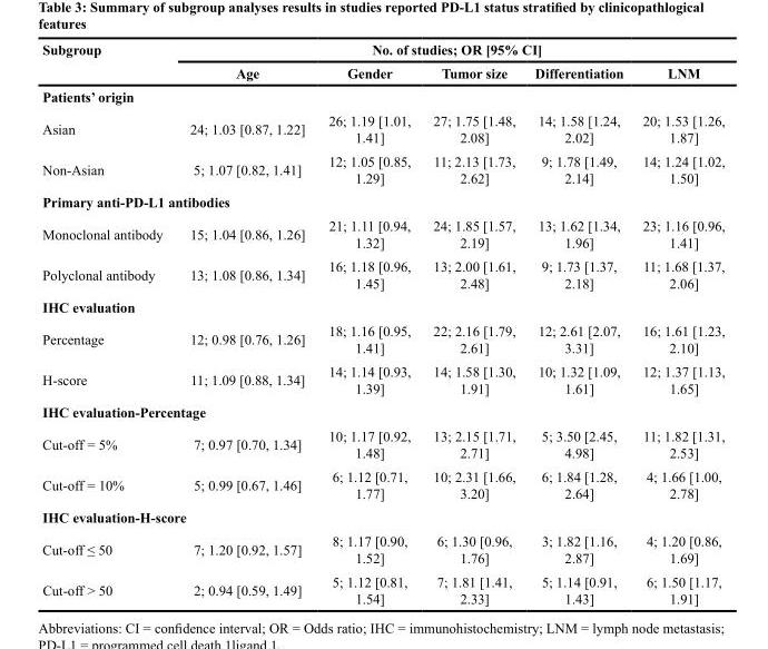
<table><thead><tr><td rowspan="2">Subgroup</td><td colspan="5">No. of studies; OR [95% CI]</td></tr><tr><td>Age</td><td>Gender</td><td>Tumor size</td><td>Differentiation</td><td>LNM</td></tr></thead><tbody><tr><td colspan="6">Patients’ origin</td></tr><tr><td>Asian</td><td>24; 1.03 [0.87, 1.22]</td><td>26; 1.19 [1.01, 1.41]</td><td>27; 1.75 [1.48, 2.08]</td><td>14; 1.58 [1.24, 2.02]</td><td>20; 1.53 [1.26, 1.87]</td></tr><tr><td>Non-Asian</td><td>5; 1.07 [0.82, 1.41]</td><td>12; 1.05 [0.85, 1.29]</td><td>11; 2.13 [1.73, 2.62]</td><td>9; 1.78 [1.49, 2.14]</td><td>14; 1.24 [1.02, 1.50]</td></tr><tr><td colspan="6">Primary anti-PD-L1 antibodies</td></tr><tr><td>Monoclonal antibody</td><td>15; 1.04 [0.86, 1.26]</td><td>21; 1.11 [0.94, 1.32]</td><td>24; 1.85 [1.57, 2.19]</td><td>13; 1.62 [1.34, 1.96]</td><td>23; 1.16 [0.96, 1.41]</td></tr><tr><td>Polyclonal antibody</td><td>13; 1.08 [0.86, 1.34]</td><td>16; 1.18 [0.96, 1.45]</td><td>13; 2.00 [1.61, 2.48]</td><td>9; 1.73 [1.37, 2.18]</td><td>11; 1.68 [1.37, 2.06]</td></tr><tr><td colspan="6">IHC evaluation</td></tr><tr><td>Percentage</td><td>12; 0.98 [0.76, 1.26]</td><td>18; 1.16 [0.95, 1.41]</td><td>22; 2.16 [1.79, 2.61]</td><td>12; 2.61 [2.07, 3.31]</td><td>16; 1.61 [1.23, 2.10]</td></tr><tr><td>H-score</td><td>11; 1.09 [0.88, 1.34]</td><td>14; 1.14 [0.93, 1.39]</td><td>14; 1.58 [1.30, 1.91]</td><td>10; 1.32 [1.09, 1.61]</td><td>12; 1.37 [1.13, 1.65]</td></tr><tr><td colspan="6">IHC evaluation-Percentage</td></tr><tr><td>Cut-off = 5%</td><td>7; 0.97 [0.70, 1.34]</td><td>10; 1.17 [0.92, 1.48]</td><td>13; 2.15 [1.71, 2.71]</td><td>5; 3.50 [2.45, 4.98]</td><td>11; 1.82 [1.31, 2.53]</td></tr><tr><td>Cut-off = 10%</td><td>5; 0.99 [0.67, 1.46]</td><td>6; 1.12 [0.71, 1.77]</td><td>10; 2.31 [1.66, 3.20]</td><td>6; 1.84 [1.28, 2.64]</td><td>4; 1.66 [1.00, 2.78]</td></tr><tr><td colspan="6">IHC evaluation-H-score</td></tr><tr><td>Cut-off ≤ 50</td><td>7; 1.20 [0.92, 1.57]</td><td>8; 1.17 [0.90, 1.52]</td><td>6; 1.30 [0.96, 1.76]</td><td>3; 1.82 [1.16, 2.87]</td><td>4; 1.20 [0.86, 1.69]</td></tr><tr><td>Cut-off &gt; 50</td><td>2; 0.94 [0.59, 1.49]</td><td>5; 1.12 [0.81, 1.54]</td><td>7; 1.81 [1.41, 2.33]</td><td>5; 1.14 [0.91, 1.43]</td><td>6; 1.50 [1.17, 1.91]</td></tr></tbody></table>